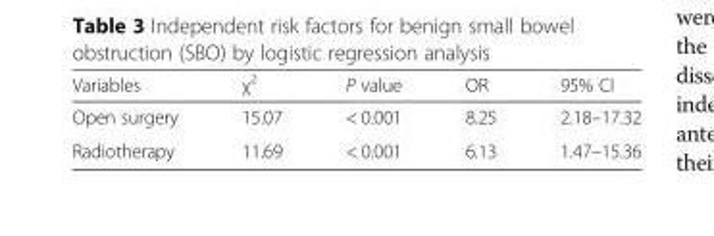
<table><thead><tr><td>Variables</td><td>χ<sup>2</sup></td><td>P value</td><td>OR</td><td>95% CI</td></tr></thead><tbody><tr><td>Open surgery</td><td>15.07</td><td>&lt; 0.001</td><td>8.25</td><td>2.18–17.32</td></tr><tr><td>Radiotherapy</td><td>11.69</td><td>&lt; 0.001</td><td>6.13</td><td>1.47–15.36</td></tr></tbody></table>